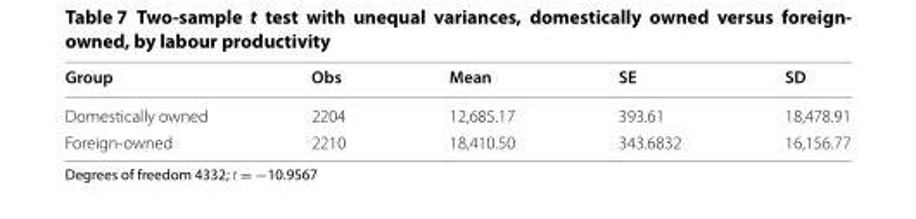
<table><thead><tr><td>Group</td><td>Obs</td><td>Mean</td><td>SE</td><td>SD</td></tr></thead><tbody><tr><td>Domestically owned</td><td>2204</td><td>12,685.17</td><td>393.61</td><td>18,478.91</td></tr><tr><td>Foreign-owned</td><td>2210</td><td>18,410.50</td><td>343.6832</td><td>16,156.77</td></tr></tbody></table>